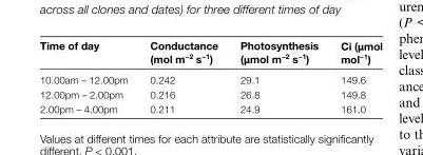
<table><thead><tr><td>Time of day</td><td>Conductance (mol m<sup>−2</sup> s<sup>−1</sup>)</td><td>Photosynthesis (μmol m<sup>−2</sup> s<sup>−1</sup>)</td><td>Ci (μmol mol<sup>−1</sup>)</td></tr></thead><tbody><tr><td>10.00am – 12.00pm</td><td>0.242</td><td>29.1</td><td>149.6</td></tr><tr><td>12.00pm – 2.00pm</td><td>0.216</td><td>26.8</td><td>149.8</td></tr><tr><td>2.00pm – 4.00pm</td><td>0.211</td><td>24.9</td><td>161.0</td></tr></tbody></table>